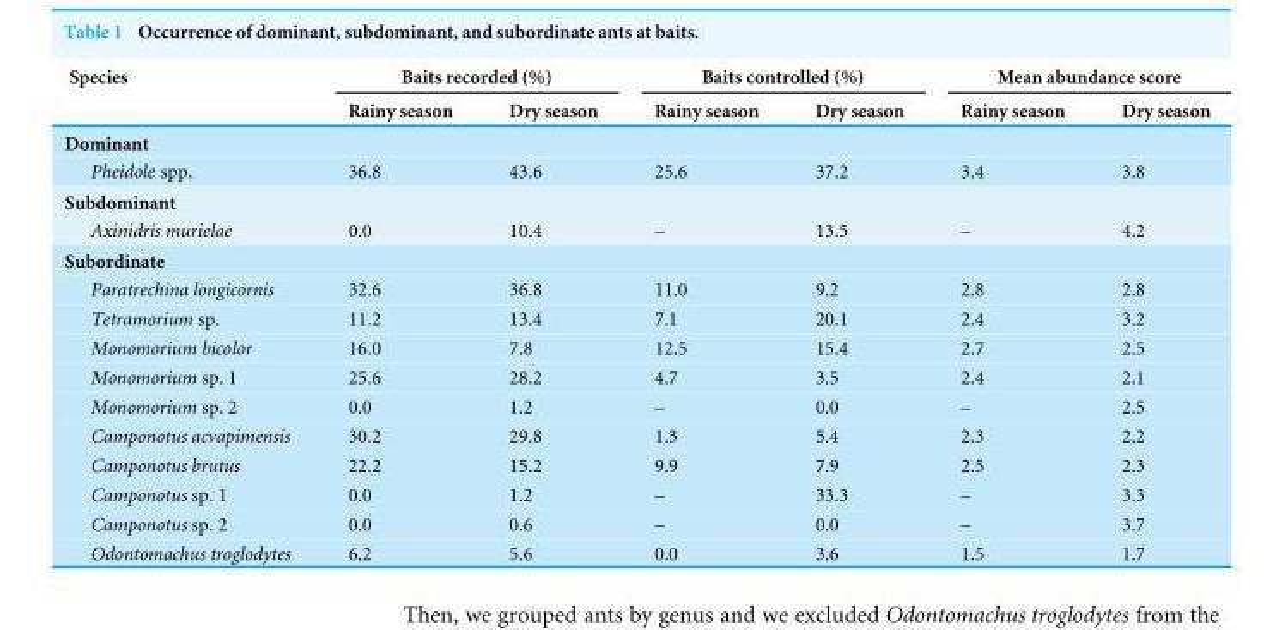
<table><thead><tr><td rowspan="2">Species</td><td colspan="2">Baits recorded (%)</td><td colspan="2">Baits controlled (%)</td><td colspan="2">Mean abundance score</td></tr><tr><td>Rainy season</td><td>Dry season</td><td>Rainy season</td><td>Dry season</td><td>Rainy season</td><td>Dry season</td></tr></thead><tbody><tr><td colspan="7">Dominant</td></tr><tr><td>Pheidole spp.</td><td>36.8</td><td>43.6</td><td>25.6</td><td>37.2</td><td>3.4</td><td>3.8</td></tr><tr><td colspan="7">Subdominant</td></tr><tr><td>Axinidris murielae</td><td>0.0</td><td>10.4</td><td>–</td><td>13.5</td><td>–</td><td>4.2</td></tr><tr><td colspan="7">Subordinate</td></tr><tr><td>Paratrechina longicornis</td><td>32.6</td><td>36.8</td><td>11.0</td><td>9.2</td><td>2.8</td><td>2.8</td></tr><tr><td>Tetramorium sp.</td><td>11.2</td><td>13.4</td><td>7.1</td><td>20.1</td><td>2.4</td><td>3.2</td></tr><tr><td>Monomorium bicolor</td><td>16.0</td><td>7.8</td><td>12.5</td><td>15.4</td><td>2.7</td><td>2.5</td></tr><tr><td>Monomorium sp. 1</td><td>25.6</td><td>28.2</td><td>4.7</td><td>3.5</td><td>2.4</td><td>2.1</td></tr><tr><td>Monomorium sp. 2</td><td>0.0</td><td>1.2</td><td>–</td><td>0.0</td><td>–</td><td>2.5</td></tr><tr><td>Camponotus acvapimensis</td><td>30.2</td><td>29.8</td><td>1.3</td><td>5.4</td><td>2.3</td><td>2.2</td></tr><tr><td>Camponotus brutus</td><td>22.2</td><td>15.2</td><td>9.9</td><td>7.9</td><td>2.5</td><td>2.3</td></tr><tr><td>Camponotus sp. 1</td><td>0.0</td><td>1.2</td><td>–</td><td>33.3</td><td>–</td><td>3.3</td></tr><tr><td>Camponotus sp. 2</td><td>0.0</td><td>0.6</td><td>–</td><td>0.0</td><td>–</td><td>3.7</td></tr><tr><td>Odontomachus troglodytes</td><td>6.2</td><td>5.6</td><td>0.0</td><td>3.6</td><td>1.5</td><td>1.7</td></tr></tbody></table>